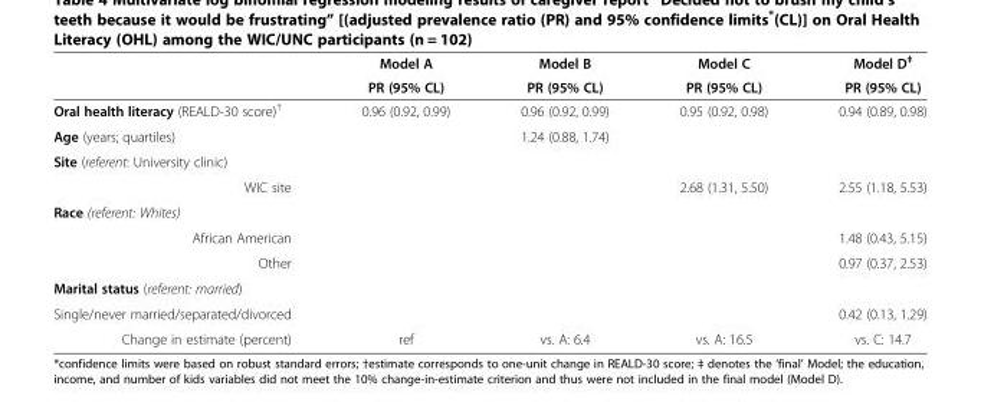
<table><thead><tr><td rowspan="2"></td><td rowspan="2">Model A PR (95% CL)</td><td rowspan="2">Model B PR (95% CL)</td><td rowspan="2">Model C PR (95% CL)</td><td rowspan="2">Model D<sup>‡</sup> PR (95% CL)</td></tr><tr></tr></thead><tbody><tr><td>Oral health literacy (REALD-30 score)<sup>†</sup></td><td>0.96 (0.92, 0.99)</td><td>0.96 (0.92, 0.99)</td><td>0.95 (0.92, 0.98)</td><td>0.94 (0.89, 0.98)</td></tr><tr><td>Age (years; quartiles)</td><td></td><td>1.24 (0.88, 1.74)</td><td></td><td></td></tr><tr><td colspan="5">Site (referent: University clinic)</td></tr><tr><td>WIC site</td><td></td><td></td><td>2.68 (1.31, 5.50)</td><td>2.55 (1.18, 5.53)</td></tr><tr><td colspan="5">Race (referent: Whites)</td></tr><tr><td>African American</td><td></td><td></td><td></td><td>1.48 (0.43, 5.15)</td></tr><tr><td>Other</td><td></td><td></td><td></td><td>0.97 (0.37, 2.53)</td></tr><tr><td colspan="5">Marital status (referent: married)</td></tr><tr><td>Single/never married/separated/divorced</td><td></td><td></td><td></td><td>0.42 (0.13, 1.29)</td></tr><tr><td>Change in estimate (percent)</td><td>ref</td><td>vs. A: 6.4</td><td>vs. A: 16.5</td><td>vs. C: 14.7</td></tr></tbody></table>